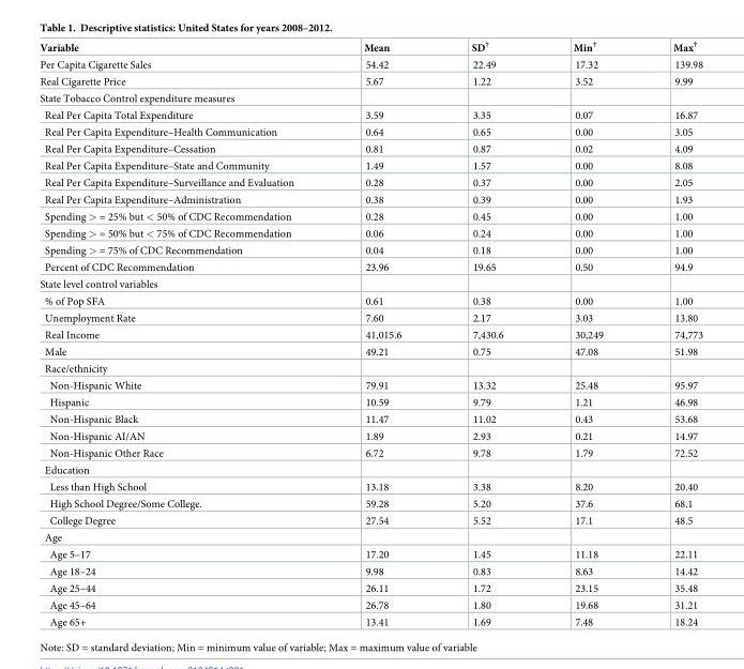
<table><thead><tr><td>Variable</td><td>Mean</td><td>SD<sup>†</sup></td><td>Min<sup>†</sup></td><td>Max<sup>†</sup></td></tr></thead><tbody><tr><td>Per Capita Cigarette Sales</td><td>54.42</td><td>22.49</td><td>17.32</td><td>139.98</td></tr><tr><td>Real Cigarette Price</td><td>5.67</td><td>1.22</td><td>3.52</td><td>9.99</td></tr><tr><td colspan="5">State Tobacco Control expenditure measures</td></tr><tr><td>Real Per Capita Total Expenditure</td><td>3.59</td><td>3.35</td><td>0.07</td><td>16.87</td></tr><tr><td>Real Per Capita Expenditure–Health Communication</td><td>0.64</td><td>0.65</td><td>0.00</td><td>3.05</td></tr><tr><td>Real Per Capita Expenditure–Cessation</td><td>0.81</td><td>0.87</td><td>0.02</td><td>4.09</td></tr><tr><td>Real Per Capita Expenditure–State and Community</td><td>1.49</td><td>1.57</td><td>0.00</td><td>8.08</td></tr><tr><td>Real Per Capita Expenditure–Surveillance and Evaluation</td><td>0.28</td><td>0.37</td><td>0.00</td><td>2.05</td></tr><tr><td>Real Per Capita Expenditure–Administration</td><td>0.38</td><td>0.39</td><td>0.00</td><td>1.93</td></tr><tr><td>Spending &gt; = 25% but &lt; 50% of CDC Recommendation</td><td>0.28</td><td>0.45</td><td>0.00</td><td>1.00</td></tr><tr><td>Spending &gt; = 50% but &lt; 75% of CDC Recommendation</td><td>0.06</td><td>0.24</td><td>0.00</td><td>1.00</td></tr><tr><td>Spending &gt; = 75% of CDC Recommendation</td><td>0.04</td><td>0.18</td><td>0.00</td><td>1.00</td></tr><tr><td>Percent of CDC Recommendation</td><td>23.96</td><td>19.65</td><td>0.50</td><td>94.9</td></tr><tr><td colspan="5">State level control variables</td></tr><tr><td>% of Pop SFA</td><td>0.61</td><td>0.38</td><td>0.00</td><td>1.00</td></tr><tr><td>Unemployment Rate</td><td>7.60</td><td>2.17</td><td>3.03</td><td>13.80</td></tr><tr><td>Real Income</td><td>41,015.6</td><td>7,430.6</td><td>30,249</td><td>74,773</td></tr><tr><td>Male</td><td>49.21</td><td>0.75</td><td>47.08</td><td>51.98</td></tr><tr><td colspan="5">Race/ethnicity</td></tr><tr><td>Non-Hispanic White</td><td>79.91</td><td>13.32</td><td>25.48</td><td>95.97</td></tr><tr><td>Hispanic</td><td>10.59</td><td>9.79</td><td>1.21</td><td>46.98</td></tr><tr><td>Non-Hispanic Black</td><td>11.47</td><td>11.02</td><td>0.43</td><td>53.68</td></tr><tr><td>Non-Hispanic AI/AN</td><td>1.89</td><td>2.93</td><td>0.21</td><td>14.97</td></tr><tr><td>Non-Hispanic Other Race</td><td>6.72</td><td>9.78</td><td>1.79</td><td>72.52</td></tr><tr><td colspan="5">Education</td></tr><tr><td>Less than High School</td><td>13.18</td><td>3.38</td><td>8.20</td><td>20.40</td></tr><tr><td>High School Degree/Some College.</td><td>59.28</td><td>5.20</td><td>37.6</td><td>68.1</td></tr><tr><td>College Degree</td><td>27.54</td><td>5.52</td><td>17.1</td><td>48.5</td></tr><tr><td colspan="5">Age</td></tr><tr><td>Age 5–17</td><td>17.20</td><td>1.45</td><td>11.18</td><td>22.11</td></tr><tr><td>Age 18–24</td><td>9.98</td><td>0.83</td><td>8.63</td><td>14.42</td></tr><tr><td>Age 25–44</td><td>26.11</td><td>1.72</td><td>23.15</td><td>35.48</td></tr><tr><td>Age 45–64</td><td>26.78</td><td>1.80</td><td>19.68</td><td>31.21</td></tr><tr><td>Age 65+</td><td>13.41</td><td>1.69</td><td>7.48</td><td>18.24</td></tr></tbody></table>